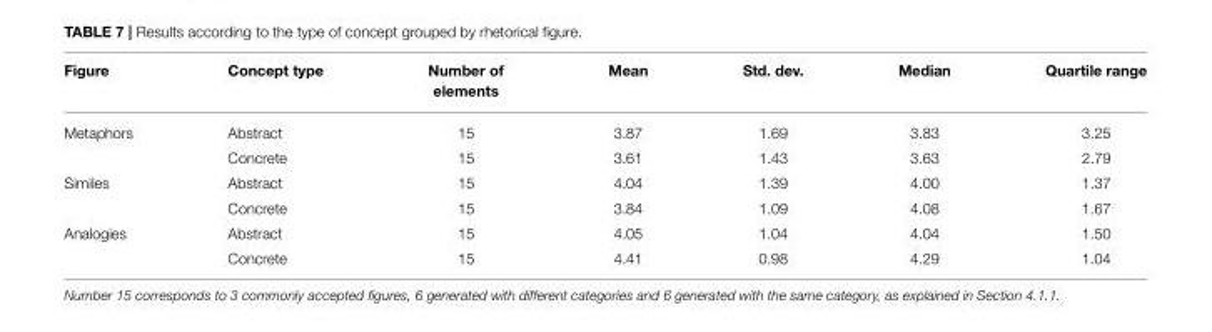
<table><thead><tr><td>Figure</td><td>Concept type</td><td>Number of elements</td><td>Mean</td><td>Std. dev.</td><td>Median</td><td>Quartile range</td></tr></thead><tbody><tr><td rowspan="2">Metaphors</td><td>Abstract</td><td>15</td><td>3.87</td><td>1.69</td><td>3.83</td><td>3.25</td></tr><tr><td>Concrete</td><td>15</td><td>3.61</td><td>1.43</td><td>3.63</td><td>2.79</td></tr><tr><td rowspan="2">Similes</td><td>Abstract</td><td>15</td><td>4.04</td><td>1.39</td><td>4.00</td><td>1.37</td></tr><tr><td>Concrete</td><td>15</td><td>3.84</td><td>1.09</td><td>4.08</td><td>1.67</td></tr><tr><td rowspan="2">Analogies</td><td>Abstract</td><td>15</td><td>4.05</td><td>1.04</td><td>4.04</td><td>1.50</td></tr><tr><td>Concrete</td><td>15</td><td>4.41</td><td>0.98</td><td>4.29</td><td>1.04</td></tr></tbody></table>